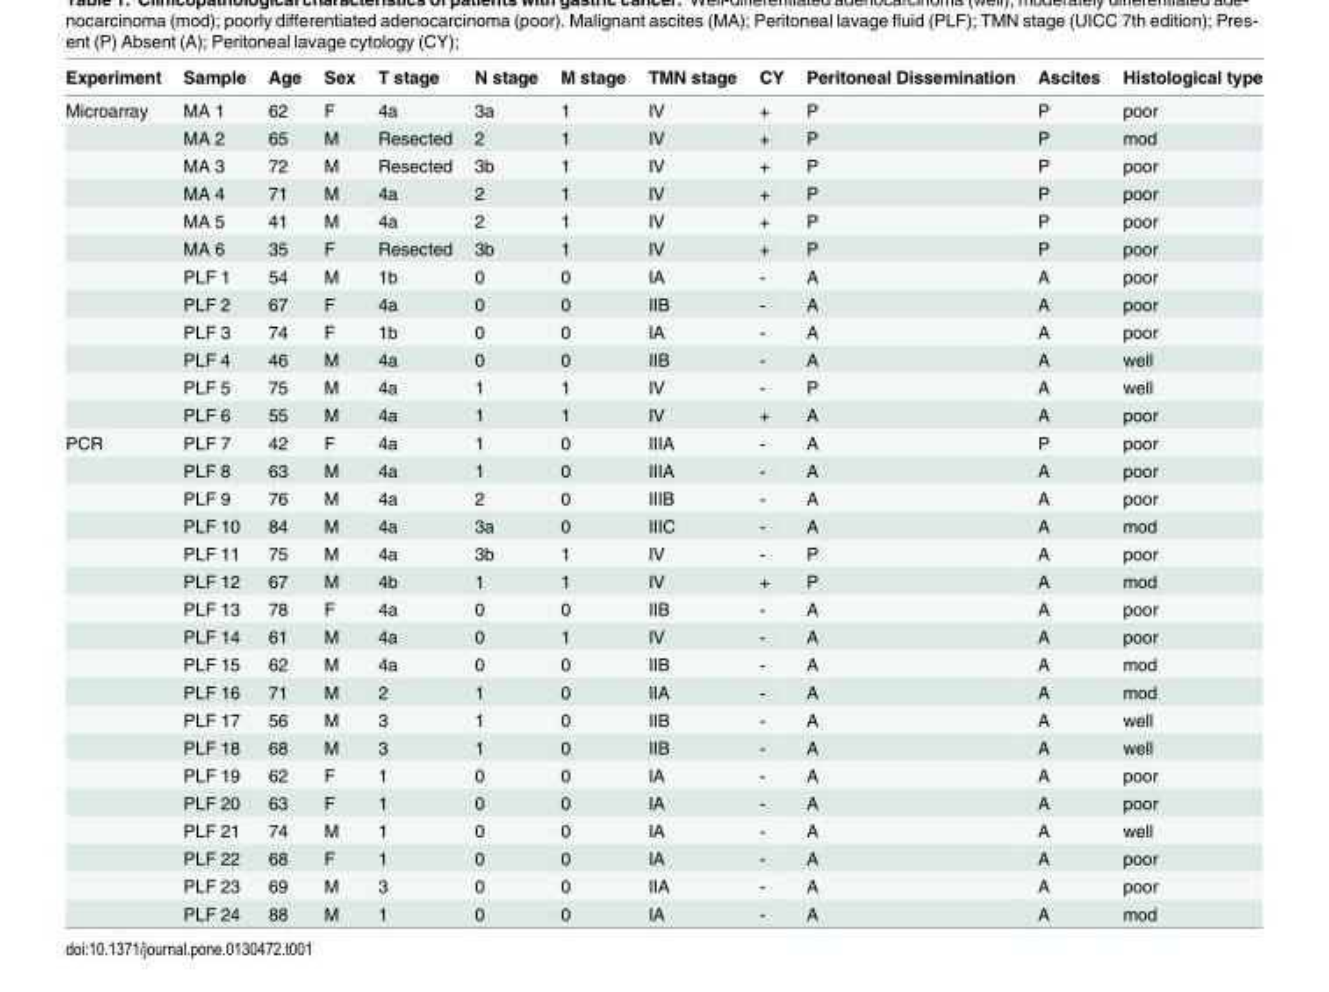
<table><thead><tr><td>Experiment</td><td>Sample</td><td>Age</td><td>Sex</td><td>T stage</td><td>N stage</td><td>M stage</td><td>TMN stage</td><td>CY</td><td>Peritoneal Dissemination</td><td>Ascites</td><td>Histological type</td></tr></thead><tbody><tr><td rowspan="12">Microarray</td><td>MA 1</td><td>62</td><td>F</td><td>4a</td><td>3a</td><td>1</td><td>IV</td><td>+</td><td>P</td><td>P</td><td>poor</td></tr><tr><td>MA 2</td><td>65</td><td>M</td><td>Resected</td><td>2</td><td>1</td><td>IV</td><td>+</td><td>P</td><td>P</td><td>mod</td></tr><tr><td>MA 3</td><td>72</td><td>M</td><td>Resected</td><td>3b</td><td>1</td><td>IV</td><td>+</td><td>P</td><td>P</td><td>poor</td></tr><tr><td>MA 4</td><td>71</td><td>M</td><td>4a</td><td>2</td><td>1</td><td>IV</td><td>+</td><td>P</td><td>P</td><td>poor</td></tr><tr><td>MA 5</td><td>41</td><td>M</td><td>4a</td><td>2</td><td>1</td><td>IV</td><td>+</td><td>P</td><td>P</td><td>poor</td></tr><tr><td>MA 6</td><td>35</td><td>F</td><td>Resected</td><td>3b</td><td>1</td><td>IV</td><td>+</td><td>P</td><td>P</td><td>poor</td></tr><tr><td>PLF 1</td><td>54</td><td>M</td><td>1b</td><td>0</td><td>0</td><td>IA</td><td>-</td><td>A</td><td>A</td><td>poor</td></tr><tr><td>PLF 2</td><td>67</td><td>F</td><td>4a</td><td>0</td><td>0</td><td>IIB</td><td>-</td><td>A</td><td>A</td><td>poor</td></tr><tr><td>PLF 3</td><td>74</td><td>F</td><td>1b</td><td>0</td><td>0</td><td>IA</td><td>-</td><td>A</td><td>A</td><td>poor</td></tr><tr><td>PLF 4</td><td>46</td><td>M</td><td>4a</td><td>0</td><td>0</td><td>IIB</td><td>-</td><td>A</td><td>A</td><td>well</td></tr><tr><td>PLF 5</td><td>75</td><td>M</td><td>4a</td><td>1</td><td>1</td><td>IV</td><td>-</td><td>P</td><td>A</td><td>well</td></tr><tr><td>PLF 6</td><td>55</td><td>M</td><td>4a</td><td>1</td><td>1</td><td>IV</td><td>+</td><td>A</td><td>A</td><td>poor</td></tr><tr><td rowspan="18">PCR</td><td>PLF 7</td><td>42</td><td>F</td><td>4a</td><td>1</td><td>0</td><td>IIIA</td><td>-</td><td>A</td><td>P</td><td>poor</td></tr><tr><td>PLF 8</td><td>63</td><td>M</td><td>4a</td><td>1</td><td>0</td><td>IIIA</td><td>-</td><td>A</td><td>A</td><td>poor</td></tr><tr><td>PLF 9</td><td>76</td><td>M</td><td>4a</td><td>2</td><td>0</td><td>IIIB</td><td>-</td><td>A</td><td>A</td><td>poor</td></tr><tr><td>PLF 10</td><td>84</td><td>M</td><td>4a</td><td>3a</td><td>0</td><td>IIIC</td><td>-</td><td>A</td><td>A</td><td>mod</td></tr><tr><td>PLF 11</td><td>75</td><td>M</td><td>4a</td><td>3b</td><td>1</td><td>IV</td><td>-</td><td>P</td><td>A</td><td>poor</td></tr><tr><td>PLF 12</td><td>67</td><td>M</td><td>4b</td><td>1</td><td>1</td><td>IV</td><td>+</td><td>P</td><td>A</td><td>mod</td></tr><tr><td>PLF 13</td><td>78</td><td>F</td><td>4a</td><td>0</td><td>0</td><td>IIB</td><td>-</td><td>A</td><td>A</td><td>poor</td></tr><tr><td>PLF 14</td><td>61</td><td>M</td><td>4a</td><td>0</td><td>1</td><td>IV</td><td>-</td><td>A</td><td>A</td><td>poor</td></tr><tr><td>PLF 15</td><td>62</td><td>M</td><td>4a</td><td>0</td><td>0</td><td>IIB</td><td>-</td><td>A</td><td>A</td><td>mod</td></tr><tr><td>PLF 16</td><td>71</td><td>M</td><td>2</td><td>1</td><td>0</td><td>IIA</td><td>-</td><td>A</td><td>A</td><td>mod</td></tr><tr><td>PLF 17</td><td>56</td><td>M</td><td>3</td><td>1</td><td>0</td><td>IIB</td><td>-</td><td>A</td><td>A</td><td>well</td></tr><tr><td>PLF 18</td><td>68</td><td>M</td><td>3</td><td>1</td><td>0</td><td>IIB</td><td>-</td><td>A</td><td>A</td><td>well</td></tr><tr><td>PLF 19</td><td>62</td><td>F</td><td>1</td><td>0</td><td>0</td><td>IA</td><td>-</td><td>A</td><td>A</td><td>poor</td></tr><tr><td>PLF 20</td><td>63</td><td>F</td><td>1</td><td>0</td><td>0</td><td>IA</td><td>-</td><td>A</td><td>A</td><td>poor</td></tr><tr><td>PLF 21</td><td>74</td><td>M</td><td>1</td><td>0</td><td>0</td><td>IA</td><td>-</td><td>A</td><td>A</td><td>well</td></tr><tr><td>PLF 22</td><td>68</td><td>F</td><td>1</td><td>0</td><td>0</td><td>IA</td><td>-</td><td>A</td><td>A</td><td>poor</td></tr><tr><td>PLF 23</td><td>69</td><td>M</td><td>3</td><td>0</td><td>0</td><td>IIA</td><td>-</td><td>A</td><td>A</td><td>poor</td></tr><tr><td>PLF 24</td><td>88</td><td>M</td><td>1</td><td>0</td><td>0</td><td>IA</td><td>-</td><td>A</td><td>A</td><td>mod</td></tr></tbody></table>